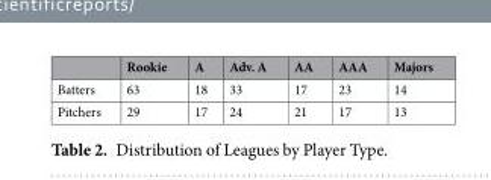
<table><thead><tr><td></td><td>Rookie</td><td>A</td><td>Adv. A</td><td>AA</td><td>AAA</td><td>Majors</td></tr></thead><tbody><tr><td>Batters</td><td>63</td><td>18</td><td>33</td><td>17</td><td>23</td><td>14</td></tr><tr><td>Pitchers</td><td>29</td><td>17</td><td>24</td><td>21</td><td>17</td><td>13</td></tr></tbody></table>